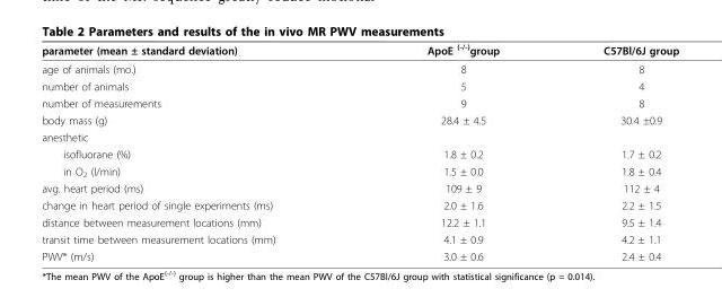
<table><thead><tr><td>parameter (mean ± standard deviation)</td><td>ApoE <sup>(-/-)</sup>group</td><td>C57Bl/6J group</td></tr></thead><tbody><tr><td>age of animals (mo.)</td><td>8</td><td>8</td></tr><tr><td>number of animals</td><td>5</td><td>4</td></tr><tr><td>number of measurements</td><td>9</td><td>8</td></tr><tr><td>body mass (g)</td><td>28.4 ± 4.5</td><td>30.4 ±0.9</td></tr><tr><td colspan="3">anesthetic</td></tr><tr><td>isofluorane (%)</td><td>1.8 ± 0.2</td><td>1.7 ± 0.2</td></tr><tr><td>in O<sub>2</sub> (l/min)</td><td>1.5 ± 0.0</td><td>1.8 ± 0.4</td></tr><tr><td>avg. heart period (ms)</td><td>109 ± 9</td><td>112 ± 4</td></tr><tr><td>change in heart period of single experiments (ms)</td><td>2.0 ± 1.6</td><td>2.2 ± 1.5</td></tr><tr><td>distance between measurement locations (mm)</td><td>12.2 ± 1.1</td><td>9.5 ± 1.4</td></tr><tr><td>transit time between measurement locations (mm)</td><td>4.1 ± 0.9</td><td>4.2 ± 1.1</td></tr><tr><td>PWV* (m/s)</td><td>3.0 ± 0.6</td><td>2.4 ± 0.4</td></tr></tbody></table>